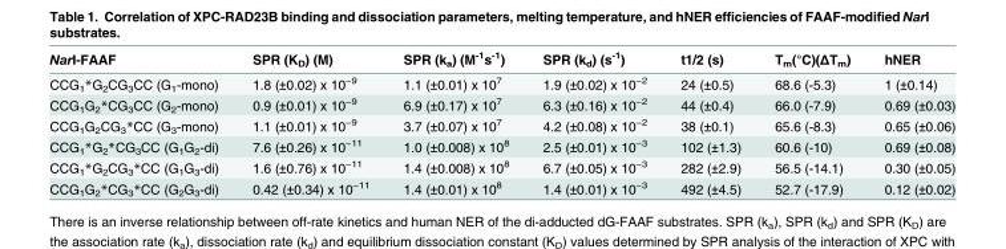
<table><thead><tr><td>NarI-FAAF</td><td>SPR (K<sub>D</sub>) (M)</td><td>SPR (k<sub>a</sub>) (M<sup>-1</sup>s<sup>-1</sup>)</td><td>SPR (k<sub>d</sub>) (s<sup>-1</sup>)</td><td>t1/2 (s)</td><td>T<sub>m</sub>(°C)(ΔT<sub>m</sub>)</td><td>hNER</td></tr></thead><tbody><tr><td>CCG<sub>1</sub>*G<sub>2</sub>CG<sub>3</sub>CC (G<sub>1</sub>-mono)</td><td>1.8 (±0.02) x 10<sup>−9</sup></td><td>1.1 (±0.01) x 10<sup>7</sup></td><td>1.9 (±0.02) x 10<sup>−2</sup></td><td>24 (±0.5)</td><td>68.6 (-5.3)</td><td>1 (±0.14)</td></tr><tr><td>CCG<sub>1</sub>G<sub>2</sub>*CG<sub>3</sub>CC (G<sub>2</sub>-mono)</td><td>0.9 (±0.01) x 10<sup>−9</sup></td><td>6.9 (±0.17) x 10<sup>7</sup></td><td>6.3 (±0.16) x 10<sup>−2</sup></td><td>44 (±0.4)</td><td>66.0 (-7.9)</td><td>0.69 (±0.03)</td></tr><tr><td>CCG<sub>1</sub>G<sub>2</sub>CG<sub>3</sub>*CC (G<sub>3</sub>-mono)</td><td>1.1 (±0.01) x 10<sup>−9</sup></td><td>3.7 (±0.07) x 10<sup>7</sup></td><td>4.2 (±0.08) x 10<sup>−2</sup></td><td>38 (±0.1)</td><td>65.6 (-8.3)</td><td>0.65 (±0.06)</td></tr><tr><td>CCG<sub>1</sub>*G<sub>2</sub>*CG<sub>3</sub>CC (G<sub>1</sub>G<sub>2</sub>-di)</td><td>7.6 (±0.26) x 10<sup>−11</sup></td><td>1.0 (±0.008) x 10<sup>8</sup></td><td>2.5 (±0.01) x 10<sup>−3</sup></td><td>102 (±1.3)</td><td>60.6 (-10)</td><td>0.69 (±0.08)</td></tr><tr><td>CCG<sub>1</sub>*G<sub>2</sub>CG<sub>3</sub>*CC (G<sub>1</sub>G<sub>3</sub>-di)</td><td>1.6 (±0.76) x 10<sup>−11</sup></td><td>1.4 (±0.008) x 10<sup>8</sup></td><td>6.7 (±0.05) x 10<sup>−3</sup></td><td>282 (±2.9)</td><td>56.5 (-14.1)</td><td>0.30 (±0.05)</td></tr><tr><td>CCG<sub>1</sub>G<sub>2</sub>*CG<sub>3</sub>*CC (G<sub>2</sub>G<sub>3</sub>-di)</td><td>0.42 (±0.34) x 10<sup>−11</sup></td><td>1.4 (±0.01) x 10<sup>8</sup></td><td>1.4 (±0.01) x 10<sup>−3</sup></td><td>492 (±4.5)</td><td>52.7 (-17.9)</td><td>0.12 (±0.02)</td></tr></tbody></table>